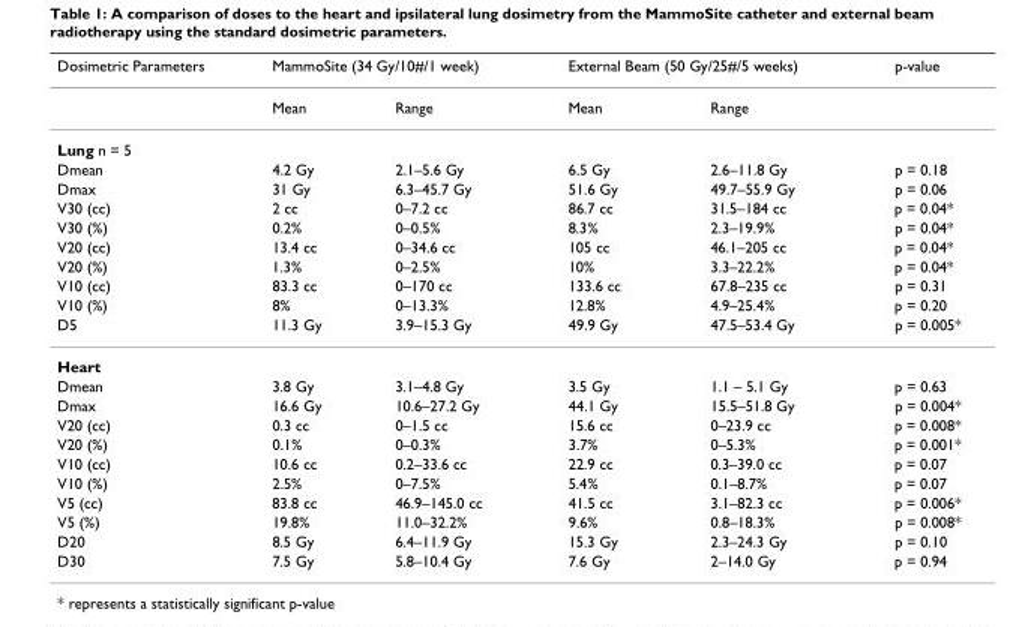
<table><thead><tr><td rowspan="2">Dosimetric Parameters</td><td colspan="2">MammoSite (34 Gy/10#/1 week)</td><td colspan="2">External Beam (50 Gy/25#/5 weeks)</td><td rowspan="2">p-value</td></tr><tr><td>Mean</td><td>Range</td><td>Mean</td><td>Range</td></tr></thead><tbody><tr><td colspan="6">Lung n = 5</td></tr><tr><td>Dmean</td><td>4.2 Gy</td><td>2.1–5.6 Gy</td><td>6.5 Gy</td><td>2.6–11.8 Gy</td><td>p = 0.18</td></tr><tr><td>Dmax</td><td>31 Gy</td><td>6.3–45.7 Gy</td><td>51.6 Gy</td><td>49.7–55.9 Gy</td><td>p = 0.06</td></tr><tr><td>V30 (cc)</td><td>2 cc</td><td>0–7.2 cc</td><td>86.7 cc</td><td>31.5–184 cc</td><td>p = 0.04*</td></tr><tr><td>V30 (%)</td><td>0.2%</td><td>0–0.5%</td><td>8.3%</td><td>2.3–19.9%</td><td>p = 0.04*</td></tr><tr><td>V20 (cc)</td><td>13.4 cc</td><td>0–34.6 cc</td><td>105 cc</td><td>46.1–205 cc</td><td>p = 0.04*</td></tr><tr><td>V20 (%)</td><td>1.3%</td><td>0–2.5%</td><td>10%</td><td>3.3–22.2%</td><td>p = 0.04*</td></tr><tr><td>V10 (cc)</td><td>83.3 cc</td><td>0–170 cc</td><td>133.6 cc</td><td>67.8–235 cc</td><td>p = 0.31</td></tr><tr><td>V10 (%)</td><td>8%</td><td>0–13.3%</td><td>12.8%</td><td>4.9–25.4%</td><td>p = 0.20</td></tr><tr><td>D5</td><td>11.3 Gy</td><td>3.9–15.3 Gy</td><td>49.9 Gy</td><td>47.5–53.4 Gy</td><td>p = 0.005*</td></tr><tr><td colspan="6">Heart</td></tr><tr><td>Dmean</td><td>3.8 Gy</td><td>3.1–4.8 Gy</td><td>3.5 Gy</td><td>1.1 – 5.1 Gy</td><td>p = 0.63</td></tr><tr><td>Dmax</td><td>16.6 Gy</td><td>10.6–27.2 Gy</td><td>44.1 Gy</td><td>15.5–51.8 Gy</td><td>p = 0.004*</td></tr><tr><td>V20 (cc)</td><td>0.3 cc</td><td>0–1.5 cc</td><td>15.6 cc</td><td>0–23.9 cc</td><td>p = 0.008*</td></tr><tr><td>V20 (%)</td><td>0.1%</td><td>0–0.3%</td><td>3.7%</td><td>0–5.3%</td><td>p = 0.001*</td></tr><tr><td>V10 (cc)</td><td>10.6 cc</td><td>0.2–33.6 cc</td><td>22.9 cc</td><td>0.3–39.0 cc</td><td>p = 0.07</td></tr><tr><td>V10 (%)</td><td>2.5%</td><td>0–7.5%</td><td>5.4%</td><td>0.1–8.7%</td><td>p = 0.07</td></tr><tr><td>V5 (cc)</td><td>83.8 cc</td><td>46.9–145.0 cc</td><td>41.5 cc</td><td>3.1–82.3 cc</td><td>p = 0.006*</td></tr><tr><td>V5 (%)</td><td>19.8%</td><td>11.0–32.2%</td><td>9.6%</td><td>0.8–18.3%</td><td>p = 0.008*</td></tr><tr><td>D20</td><td>8.5 Gy</td><td>6.4–11.9 Gy</td><td>15.3 Gy</td><td>2.3–24.3 Gy</td><td>p = 0.10</td></tr><tr><td>D30</td><td>7.5 Gy</td><td>5.8–10.4 Gy</td><td>7.6 Gy</td><td>2–14.0 Gy</td><td>p = 0.94</td></tr></tbody></table>